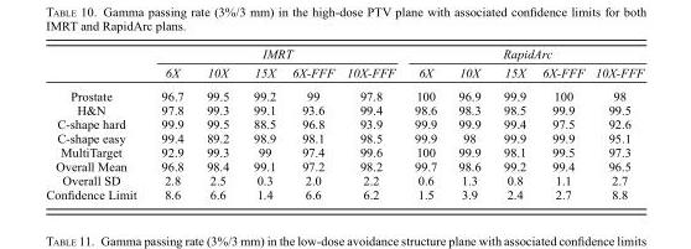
<table><thead><tr><td rowspan="2"></td><td colspan="5">IMRT</td><td colspan="5">RapidArc</td></tr><tr><td>6X</td><td>10X</td><td>15X</td><td>6X-FFF</td><td>10X-FFF</td><td>6X</td><td>10X</td><td>15X</td><td>6X-FFF</td><td>10X-FFF</td></tr></thead><tbody><tr><td>Prostate</td><td>96.7</td><td>99.5</td><td>99.2</td><td>99</td><td>97.8</td><td>100</td><td>96.9</td><td>99.9</td><td>100</td><td>98</td></tr><tr><td>H&amp;N</td><td>97.8</td><td>99.3</td><td>99.1</td><td>93.6</td><td>99.4</td><td>98.6</td><td>98.3</td><td>98.5</td><td>99.9</td><td>99.5</td></tr><tr><td>C-shape hard</td><td>99.9</td><td>99.5</td><td>88.5</td><td>96.8</td><td>93.9</td><td>99.9</td><td>99.9</td><td>99.4</td><td>97.5</td><td>92.6</td></tr><tr><td>C-shape easy</td><td>99.4</td><td>89.2</td><td>98.9</td><td>98.1</td><td>98.5</td><td>99.9</td><td>98</td><td>99.9</td><td>99.9</td><td>95.1</td></tr><tr><td>MultiTarget</td><td>92.9</td><td>99.3</td><td>99</td><td>97.4</td><td>99.6</td><td>100</td><td>99.9</td><td>98.1</td><td>99.5</td><td>97.3</td></tr><tr><td>Overall Mean</td><td>96.8</td><td>98.4</td><td>99.1</td><td>97.2</td><td>98.2</td><td>99.7</td><td>98.6</td><td>99.2</td><td>99.4</td><td>96.5</td></tr><tr><td>Overall SD</td><td>2.8</td><td>2.5</td><td>0.3</td><td>2.0</td><td>2.2</td><td>0.6</td><td>1.3</td><td>0.8</td><td>1.1</td><td>2.7</td></tr><tr><td>Confidence Limit</td><td>8.6</td><td>6.6</td><td>1.4</td><td>6.6</td><td>6.2</td><td>1.5</td><td>3.9</td><td>2.4</td><td>2.7</td><td>8.8</td></tr></tbody></table>